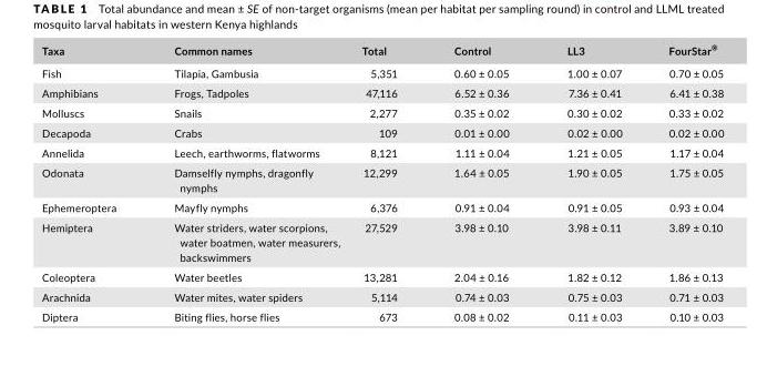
<table><thead><tr><td>Taxa</td><td>Common names</td><td>Total</td><td>Control</td><td>LL3</td><td>FourStar<sup>®</sup></td></tr></thead><tbody><tr><td>Fish</td><td>Tilapia, Gambusia</td><td>5,351</td><td>0.60 ± 0.05</td><td>1.00 ± 0.07</td><td>0.70 ± 0.05</td></tr><tr><td>Amphibians</td><td>Frogs, Tadpoles</td><td>47,116</td><td>6.52 ± 0.36</td><td>7.36 ± 0.41</td><td>6.41 ± 0.38</td></tr><tr><td>Molluscs</td><td>Snails</td><td>2,277</td><td>0.35 ± 0.02</td><td>0.30 ± 0.02</td><td>0.33 ± 0.02</td></tr><tr><td>Decapoda</td><td>Crabs</td><td>109</td><td>0.01 ± 0.00</td><td>0.02 ± 0.00</td><td>0.02 ± 0.00</td></tr><tr><td>Annelida</td><td>Leech, earthworms, flatworms</td><td>8,121</td><td>1.11 ± 0.04</td><td>1.21 ± 0.05</td><td>1.17 ± 0.04</td></tr><tr><td>Odonata</td><td>Damselfly nymphs, dragonfly nymphs</td><td>12,299</td><td>1.64 ± 0.05</td><td>1.90 ± 0.05</td><td>1.75 ± 0.05</td></tr><tr><td>Ephemeroptera</td><td>Mayfly nymphs</td><td>6,376</td><td>0.91 ± 0.04</td><td>0.91 ± 0.05</td><td>0.93 ± 0.04</td></tr><tr><td>Hemiptera</td><td>Water striders, water scorpions, water boatmen, water measurers, backswimmers</td><td>27,529</td><td>3.98 ± 0.10</td><td>3.98 ± 0.11</td><td>3.89 ± 0.10</td></tr><tr><td>Coleoptera</td><td>Water beetles</td><td>13,281</td><td>2.04 ± 0.16</td><td>1.82 ± 0.12</td><td>1.86 ± 0.13</td></tr><tr><td>Arachnida</td><td>Water mites, water spiders</td><td>5,114</td><td>0.74 ± 0.03</td><td>0.75 ± 0.03</td><td>0.71 ± 0.03</td></tr><tr><td>Diptera</td><td>Biting flies, horse flies</td><td>673</td><td>0.08 ± 0.02</td><td>0.11 ± 0.03</td><td>0.10 ± 0.03</td></tr></tbody></table>